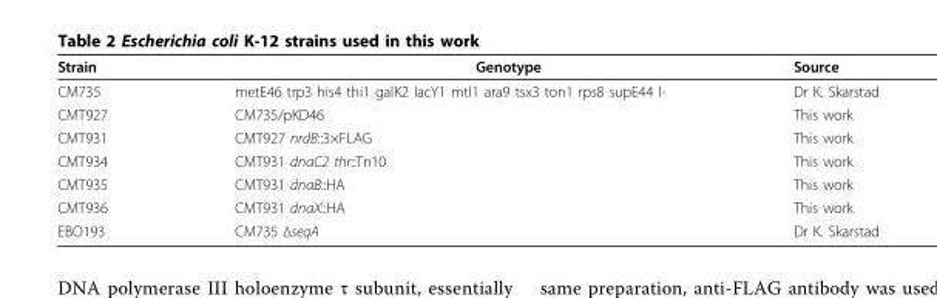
<table><thead><tr><td>Strain</td><td>Genotype</td><td>Source</td></tr></thead><tbody><tr><td>CM735</td><td>metE46 trp3 his4 thi1 galK2 lacY1 mtl1 ara9 tsx3 ton1 rps8 supE44 l-</td><td>Dr K. Skarstad</td></tr><tr><td>CMT927</td><td>CM735/pKD46</td><td>This work</td></tr><tr><td>CMT931</td><td>CMT927 nrdB::3×FLAG</td><td>This work</td></tr><tr><td>CMT934</td><td>CMT931 dnaC2 thr::Tn10</td><td>This work</td></tr><tr><td>CMT935</td><td>CMT931 dnaB::HA</td><td>This work</td></tr><tr><td>CMT936</td><td>CMT931 dnaX::HA</td><td>This work</td></tr><tr><td>EBO193</td><td>CM735 ΔseqA</td><td>Dr K. Skarstad</td></tr></tbody></table>